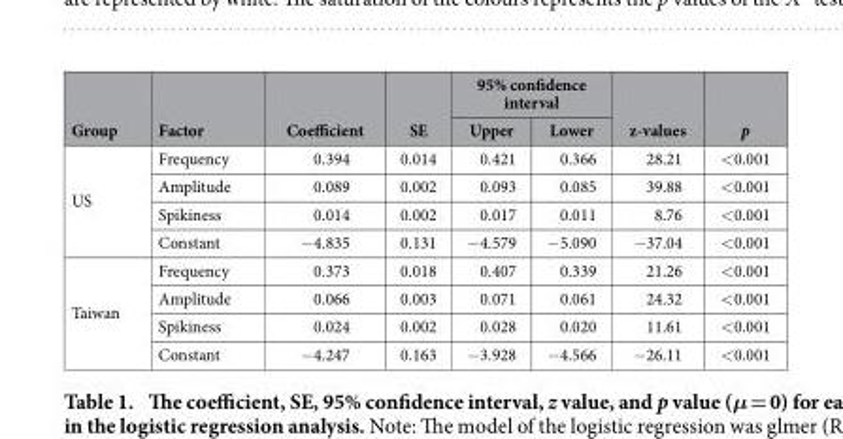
<table><thead><tr><td rowspan="2">Group</td><td rowspan="2">Factor</td><td rowspan="2">Coefficient</td><td rowspan="2">SE</td><td colspan="2">95% confidence interval</td><td rowspan="2">z-values</td><td rowspan="2">p</td></tr><tr><td>Upper</td><td>Lower</td></tr></thead><tbody><tr><td rowspan="4">US</td><td>Frequency</td><td>0.394</td><td>0.014</td><td>0.421</td><td>0.366</td><td>28.21</td><td>&lt; 0.001</td></tr><tr><td>Amplitude</td><td>0.089</td><td>0.002</td><td>0.093</td><td>0.085</td><td>39.88</td><td>&lt; 0.001</td></tr><tr><td>Spikiness</td><td>0.014</td><td>0.002</td><td>0.017</td><td>0.011</td><td>8.76</td><td>&lt; 0.001</td></tr><tr><td>Constant</td><td>− 4.835</td><td>0.131</td><td>− 4.579</td><td>− 5.090</td><td>− 37.04</td><td>&lt; 0.001</td></tr><tr><td rowspan="4">Taiwan</td><td>Frequency</td><td>0.373</td><td>0.018</td><td>0.407</td><td>0.339</td><td>21.26</td><td>&lt; 0.001</td></tr><tr><td>Amplitude</td><td>0.066</td><td>0.003</td><td>0.071</td><td>0.061</td><td>24.32</td><td>&lt; 0.001</td></tr><tr><td>Spikiness</td><td>0.024</td><td>0.002</td><td>0.028</td><td>0.020</td><td>11.61</td><td>&lt; 0.001</td></tr><tr><td>Constant</td><td>− 4.247</td><td>0.163</td><td>− 3.928</td><td>− 4.566</td><td>− 26.11</td><td>&lt; 0.001</td></tr></tbody></table>